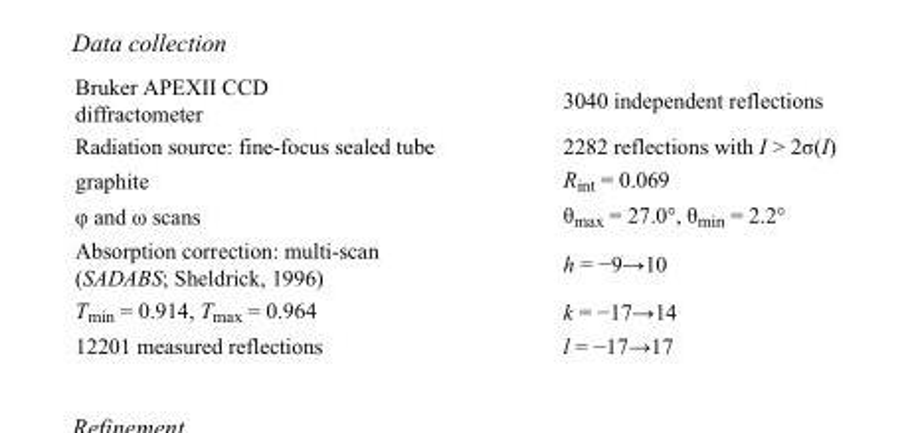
<table><tbody><tr><td>Bruker APEXII CCD diffractometer</td><td>3040 independent reflections</td></tr><tr><td>Radiation source: fine-focus sealed tube</td><td>2282 reflections with I &gt; 2σ(I)</td></tr><tr><td>graphite</td><td>R<sub>int</sub> = 0.069</td></tr><tr><td>φ and ω scans</td><td>θ<sub>max</sub> = 27.0°, θ<sub>min</sub> = 2.2°</td></tr><tr><td>Absorption correction: multi-scan (SADABS; Sheldrick, 1996)</td><td>h = −9→10</td></tr><tr><td>T<sub>min</sub> = 0.914, T<sub>max</sub> = 0.964</td><td>k = −17→14</td></tr><tr><td>12201 measured reflections</td><td>l = −17→17</td></tr></tbody></table>